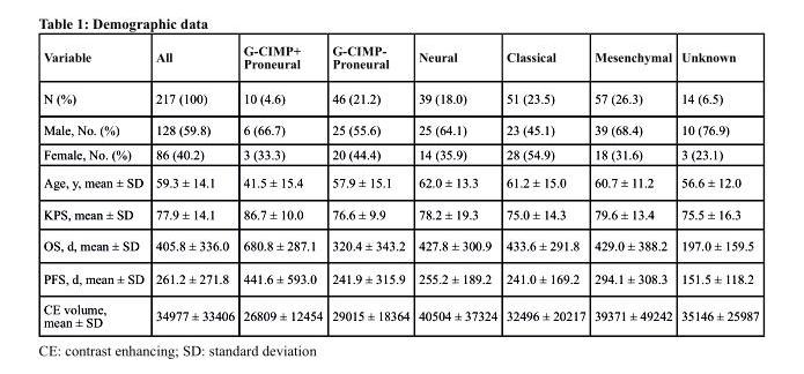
<table><thead><tr><td>Variable</td><td>All</td><td>G-cIMP+ Proneural</td><td>G-cIMP- Proneural</td><td>Neural</td><td>classical</td><td>Mesenchymal</td><td>Unknown</td></tr></thead><tbody><tr><td>N (%)</td><td>217 (100)</td><td>10 (4.6)</td><td>46 (21.2)</td><td>39 (18.0)</td><td>51 (23.5)</td><td>57 (26.3)</td><td>14 (6.5)</td></tr><tr><td>Male, No. (%)</td><td>128 (59.8)</td><td>6 (66.7)</td><td>25 (55.6)</td><td>25 (64.1)</td><td>23 (45.1)</td><td>39 (68.4)</td><td>10 (76.9)</td></tr><tr><td>Female, No. (%)</td><td>86 (40.2)</td><td>3 (33.3)</td><td>20 (44.4)</td><td>14 (35.9)</td><td>28 (54.9)</td><td>18 (31.6)</td><td>3 (23.1)</td></tr><tr><td>Age, y, mean ± SD</td><td>59.3 ± 14.1</td><td>41.5 ± 15.4</td><td>57.9 ± 15.1</td><td>62.0 ± 13.3</td><td>61.2 ± 15.0</td><td>60.7 ± 11.2</td><td>56.6 ± 12.0</td></tr><tr><td>KPS, mean ± SD</td><td>77.9 ± 14.1</td><td>86.7 ± 10.0</td><td>76.6 ± 9.9</td><td>78.2 ± 19.3</td><td>75.0 ± 14.3</td><td>79.6 ± 13.4</td><td>75.5 ± 16.3</td></tr><tr><td>OS, d, mean ± SD</td><td>405.8 ± 336.0</td><td>680.8 ± 287.1</td><td>320.4 ± 343.2</td><td>427.8 ± 300.9</td><td>433.6 ± 291.8</td><td>429.0 ± 388.2</td><td>197.0 ± 159.5</td></tr><tr><td>PFS, d, mean ± SD</td><td>261.2 ± 271.8</td><td>441.6 ± 593.0</td><td>241.9 ± 315.9</td><td>255.2 ± 189.2</td><td>241.0 ± 169.2</td><td>294.1 ± 308.3</td><td>151.5 ± 118.2</td></tr><tr><td>CE volume, mean ± SD</td><td>34977 ± 33406</td><td>26809 ± 12454</td><td>29015 ± 18364</td><td>40504 ± 37324</td><td>32496 ± 20217</td><td>39371 ± 49242</td><td>35146 ± 25987</td></tr></tbody></table>